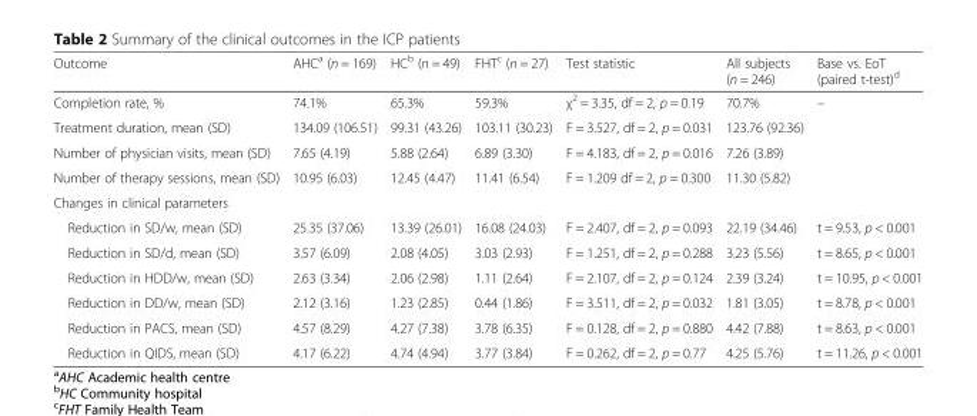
<table><thead><tr><td>Outcome</td><td>AHC<sup>a</sup> (n = 169)</td><td>HC<sup>b</sup> (n = 49)</td><td>FHT<sup>c</sup> (n = 27)</td><td>Test statistic</td><td>All subjects (n = 246)</td><td>Base vs. EoT (paired t-test)<sup>d</sup></td></tr></thead><tbody><tr><td>Completion rate, %</td><td>74.1%</td><td>65.3%</td><td>59.3%</td><td>χ<sup>2</sup> = 3.35, df = 2, p = 0.19</td><td>70.7%</td><td rowspan="4">–</td></tr><tr><td>Treatment duration, mean (SD)</td><td>134.09 (106.51)</td><td>99.31 (43.26)</td><td>103.11 (30.23)</td><td>F = 3.527, df = 2, p = 0.031</td><td>123.76 (92.36)</td></tr><tr><td>Number of physician visits, mean (SD)</td><td>7.65 (4.19)</td><td>5.88 (2.64)</td><td>6.89 (3.30)</td><td>F = 4.183, df = 2, p = 0.016</td><td>7.26 (3.89)</td></tr><tr><td>Number of therapy sessions, mean (SD)</td><td>10.95 (6.03)</td><td>12.45 (4.47)</td><td>11.41 (6.54)</td><td>F = 1.209 df = 2, p = 0.300</td><td>11.30 (5.82)</td></tr><tr><td colspan="7">Changes in clinical parameters</td></tr><tr><td>Reduction in SD/w, mean (SD)</td><td>25.35 (37.06)</td><td>13.39 (26.01)</td><td>16.08 (24.03)</td><td>F = 2.407, df = 2, p = 0.093</td><td>22.19 (34.46)</td><td>t = 9.53, p &lt; 0.001</td></tr><tr><td>Reduction in SD/d, mean (SD)</td><td>3.57 (6.09)</td><td>2.08 (4.05)</td><td>3.03 (2.93)</td><td>F = 1.251, df = 2, p = 0.288</td><td>3.23 (5.56)</td><td>t = 8.65, p &lt; 0.001</td></tr><tr><td>Reduction in HDD/w, mean (SD)</td><td>2.63 (3.34)</td><td>2.06 (2.98)</td><td>1.11 (2.64)</td><td>F = 2.107, df = 2, p = 0.124</td><td>2.39 (3.24)</td><td>t = 10.95, p &lt; 0.001</td></tr><tr><td>Reduction in DD/w, mean (SD)</td><td>2.12 (3.16)</td><td>1.23 (2.85)</td><td>0.44 (1.86)</td><td>F = 3.511, df = 2, p = 0.032</td><td>1.81 (3.05)</td><td>t = 8.78, p &lt; 0.001</td></tr><tr><td>Reduction in PACS, mean (SD)</td><td>4.57 (8.29)</td><td>4.27 (7.38)</td><td>3.78 (6.35)</td><td>F = 0.128, df = 2, p = 0.880</td><td>4.42 (7.88)</td><td>t = 8.63, p &lt; 0.001</td></tr><tr><td>Reduction in QIDS, mean (SD)</td><td>4.17 (6.22)</td><td>4.74 (4.94)</td><td>3.77 (3.84)</td><td>F = 0.262, df = 2, p = 0.77</td><td>4.25 (5.76)</td><td>t = 11.26, p &lt; 0.001</td></tr></tbody></table>